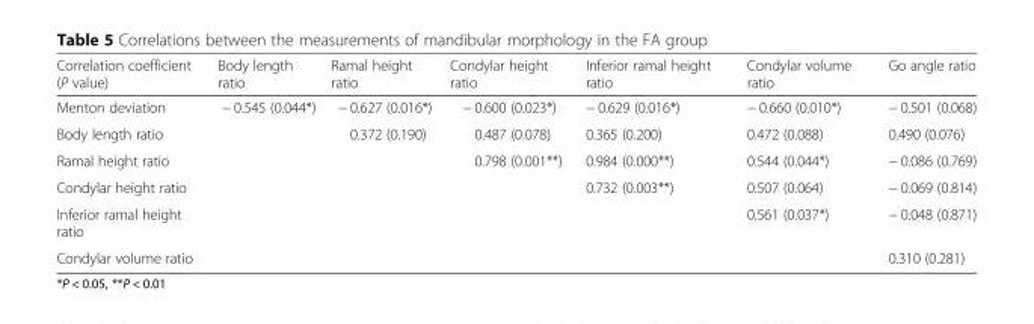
<table><thead><tr><td>Correlation coefficient (P value)</td><td>Body length ratio</td><td>Ramal height ratio</td><td>Condylar height ratio</td><td>Inferior ramal height ratio</td><td>Condylar volume ratio</td><td>Go angle ratio</td></tr></thead><tbody><tr><td>Menton deviation</td><td>− 0.545 (0.044*)</td><td>− 0.627 (0.016*)</td><td>− 0.600 (0.023*)</td><td>− 0.629 (0.016*)</td><td>− 0.660 (0.010*)</td><td>− 0.501 (0.068)</td></tr><tr><td>Body length ratio</td><td></td><td>0.372 (0.190)</td><td>0.487 (0.078)</td><td>0.365 (0.200)</td><td>0.472 (0.088)</td><td>0.490 (0.076)</td></tr><tr><td>Ramal height ratio</td><td></td><td></td><td>0.798 (0.001**)</td><td>0.984 (0.000**)</td><td>0.544 (0.044*)</td><td>− 0.086 (0.769)</td></tr><tr><td>Condylar height ratio</td><td></td><td></td><td></td><td>0.732 (0.003**)</td><td>0.507 (0.064)</td><td>− 0.069 (0.814)</td></tr><tr><td>Inferior ramal height ratio</td><td></td><td></td><td></td><td></td><td>0.561 (0.037*)</td><td>− 0.048 (0.871)</td></tr><tr><td>Condylar volume ratio</td><td></td><td></td><td></td><td></td><td></td><td>0.310 (0.281)</td></tr></tbody></table>